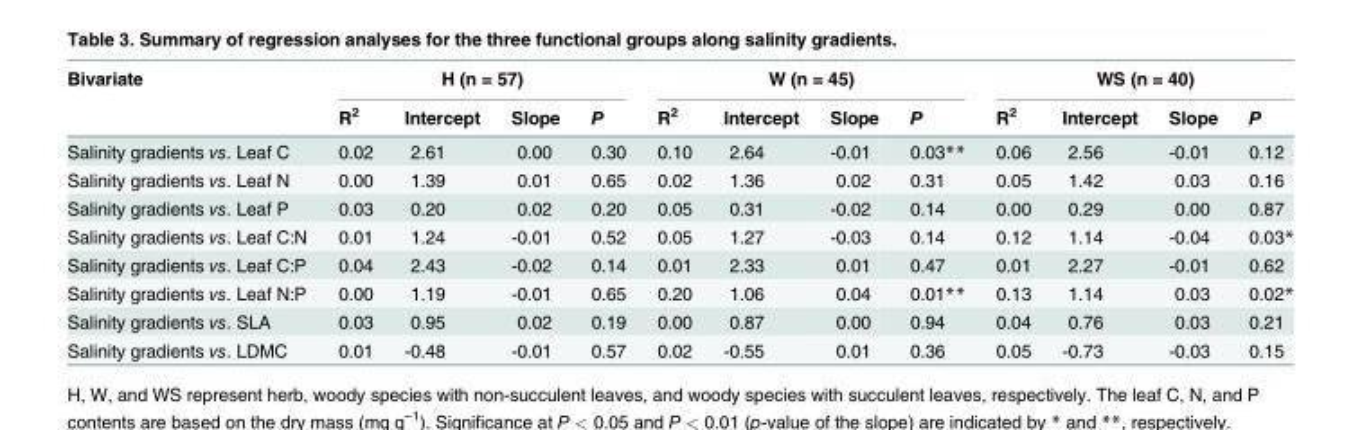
<table><thead><tr><td rowspan="2">Bivariate</td><td colspan="4">H (n = 57)</td><td colspan="4">W (n = 45)</td><td colspan="4">WS (n = 40)</td></tr><tr><td>R<sup>2</sup></td><td>Intercept</td><td>Slope</td><td>P</td><td>R<sup>2</sup></td><td>Intercept</td><td>Slope</td><td>P</td><td>R<sup>2</sup></td><td>Intercept</td><td>Slope</td><td>P</td></tr></thead><tbody><tr><td>Salinity gradients vs. Leaf C</td><td>0.02</td><td>2.61</td><td>0.00</td><td>0.30</td><td>0.10</td><td>2.64</td><td>-0.01</td><td>0.03**</td><td>0.06</td><td>2.56</td><td>-0.01</td><td>0.12</td></tr><tr><td>Salinity gradients vs. Leaf N</td><td>0.00</td><td>1.39</td><td>0.01</td><td>0.65</td><td>0.02</td><td>1.36</td><td>0.02</td><td>0.31</td><td>0.05</td><td>1.42</td><td>0.03</td><td>0.16</td></tr><tr><td>Salinity gradients vs. Leaf P</td><td>0.03</td><td>0.20</td><td>0.02</td><td>0.20</td><td>0.05</td><td>0.31</td><td>-0.02</td><td>0.14</td><td>0.00</td><td>0.29</td><td>0.00</td><td>0.87</td></tr><tr><td>Salinity gradients vs. Leaf C:N</td><td>0.01</td><td>1.24</td><td>-0.01</td><td>0.52</td><td>0.05</td><td>1.27</td><td>-0.03</td><td>0.14</td><td>0.12</td><td>1.14</td><td>-0.04</td><td>0.03*</td></tr><tr><td>Salinity gradients vs. Leaf C:P</td><td>0.04</td><td>2.43</td><td>-0.02</td><td>0.14</td><td>0.01</td><td>2.33</td><td>0.01</td><td>0.47</td><td>0.01</td><td>2.27</td><td>-0.01</td><td>0.62</td></tr><tr><td>Salinity gradients vs. Leaf N:P</td><td>0.00</td><td>1.19</td><td>-0.01</td><td>0.65</td><td>0.20</td><td>1.06</td><td>0.04</td><td>0.01**</td><td>0.13</td><td>1.14</td><td>0.03</td><td>0.02*</td></tr><tr><td>Salinity gradients vs. SLA</td><td>0.03</td><td>0.95</td><td>0.02</td><td>0.19</td><td>0.00</td><td>0.87</td><td>0.00</td><td>0.94</td><td>0.04</td><td>0.76</td><td>0.03</td><td>0.21</td></tr><tr><td>Salinity gradients vs. LDMC</td><td>0.01</td><td>-0.48</td><td>-0.01</td><td>0.57</td><td>0.02</td><td>-0.55</td><td>0.01</td><td>0.36</td><td>0.05</td><td>-0.73</td><td>-0.03</td><td>0.15</td></tr></tbody></table>